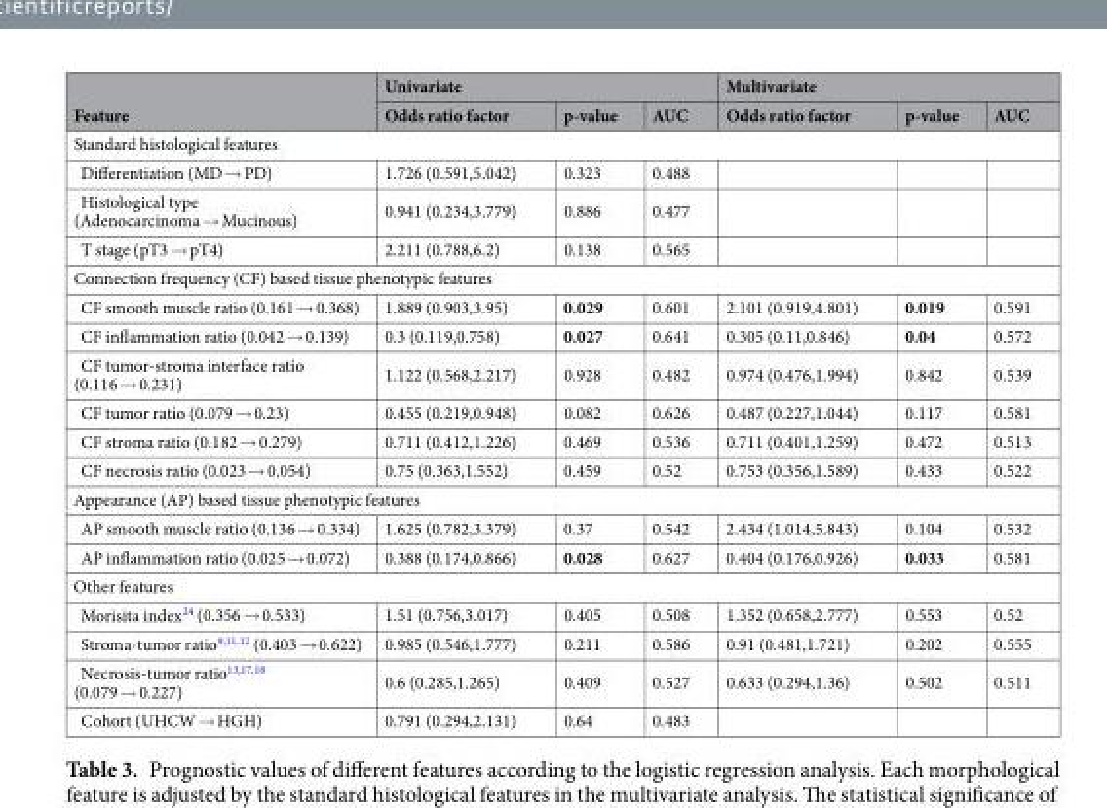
<table><thead><tr><td rowspan="2">Feature</td><td colspan="3">Univariate</td><td colspan="3">Multivariate</td></tr><tr><td>Odds ratio factor</td><td>p-value</td><td>AUC</td><td>Odds ratio factor</td><td>p-value</td><td>AUC</td></tr></thead><tbody><tr><td colspan="7">Standard histological features</td></tr><tr><td>Differentiation (MD → PD)</td><td>1.726 (0.591,5.042)</td><td>0.323</td><td>0.488</td><td></td><td></td><td></td></tr><tr><td>Histological type (Adenocarcinoma → Mucinous)</td><td>0.941 (0.234,3.779)</td><td>0.886</td><td>0.477</td><td></td><td></td><td></td></tr><tr><td>T stage (pT3 → pT4)</td><td>2.211 (0.788,6.2)</td><td>0.138</td><td>0.565</td><td></td><td></td><td></td></tr><tr><td colspan="7">Connection frequency (CF) based tissue phenotypic features</td></tr><tr><td>CF smooth muscle ratio (0.161 → 0.368)</td><td>1.889 (0.903,3.95)</td><td>0.029</td><td>0.601</td><td>2.101 (0.919,4.801)</td><td>0.019</td><td>0.591</td></tr><tr><td>CF inflammation ratio (0.042 → 0.139)</td><td>0.3 (0.119,0.758)</td><td>0.027</td><td>0.641</td><td>0.305 (0.11,0.846)</td><td>0.04</td><td>0.572</td></tr><tr><td>CF tumor-stroma interface ratio (0.116 → 0.231)</td><td>1.122 (0.568,2.217)</td><td>0.928</td><td>0.482</td><td>0.974 (0.476,1.994)</td><td>0.842</td><td>0.539</td></tr><tr><td>CF tumor ratio (0.079 → 0.23)</td><td>0.455 (0.219,0.948)</td><td>0.082</td><td>0.626</td><td>0.487 (0.227,1.044)</td><td>0.117</td><td>0.581</td></tr><tr><td>CF stroma ratio (0.182 → 0.279)</td><td>0.711 (0.412,1.226)</td><td>0.469</td><td>0.536</td><td>0.711 (0.401,1.259)</td><td>0.472</td><td>0.513</td></tr><tr><td>CF necrosis ratio (0.023 → 0.054)</td><td>0.75 (0.363,1.552)</td><td>0.459</td><td>0.52</td><td>0.753 (0.356,1.589)</td><td>0.433</td><td>0.522</td></tr><tr><td colspan="7">Appearance (AP) based tissue phenotypic features</td></tr><tr><td>AP smooth muscle ratio (0.136 → 0.334)</td><td>1.625 (0.782,3.379)</td><td>0.37</td><td>0.542</td><td>2.434 (1.014,5.843)</td><td>0.104</td><td>0.532</td></tr><tr><td>AP inflammation ratio (0.025 → 0.072)</td><td>0.388 (0.174,0.866)</td><td>0.028</td><td>0.627</td><td>0.404 (0.176,0.926)</td><td>0.033</td><td>0.581</td></tr><tr><td colspan="7">Other features</td></tr><tr><td>Morisita index<sup>24</sup> (0.356 → 0.533)</td><td>1.51 (0.756,3.017)</td><td>0.405</td><td>0.508</td><td>1.352 (0.658,2.777)</td><td>0.553</td><td>0.52</td></tr><tr><td>Stroma-tumor ratio<sup>9,11,12</sup> (0.403 → 0.622)</td><td>0.985 (0.546,1.777)</td><td>0.211</td><td>0.586</td><td>0.91 (0.481,1.721)</td><td>0.202</td><td>0.555</td></tr><tr><td>Necrosis-tumor ratio<sup>13,17,18</sup> (0.079 → 0.227)</td><td>0.6 (0.285,1.265)</td><td>0.409</td><td>0.527</td><td>0.633 (0.294,1.36)</td><td>0.502</td><td>0.511</td></tr><tr><td>Cohort (UHCW → HGH)</td><td>0.791 (0.294,2.131)</td><td>0.64</td><td>0.483</td><td></td><td></td><td></td></tr></tbody></table>